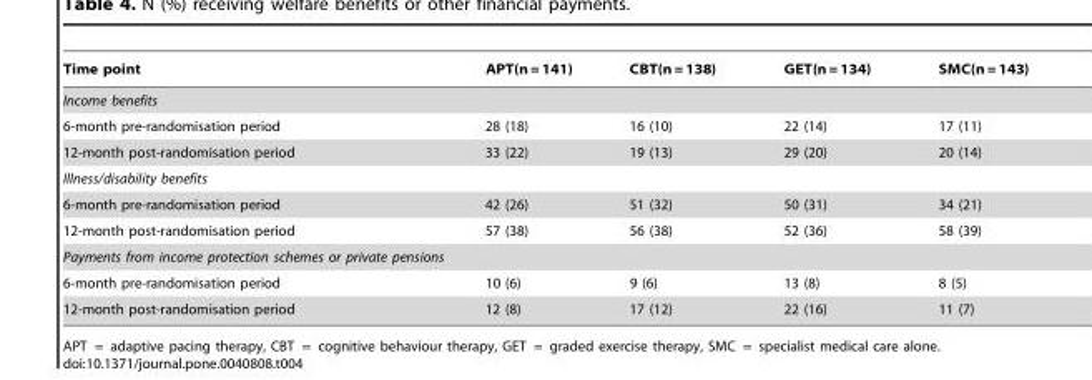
<table><thead><tr><td>Time point</td><td>APT(n = 141)</td><td>CBT(n = 138)</td><td>GET(n = 134)</td><td>SMC(n = 143)</td></tr></thead><tbody><tr><td colspan="5">Income benefits</td></tr><tr><td>6-month pre-randomisation period</td><td>28 (18)</td><td>16 (10)</td><td>22 (14)</td><td>17 (11)</td></tr><tr><td>12-month post-randomisation period</td><td>33 (22)</td><td>19 (13)</td><td>29 (20)</td><td>20 (14)</td></tr><tr><td colspan="5">Illness/disability benefits</td></tr><tr><td>6-month pre-randomisation period</td><td>42 (26)</td><td>51 (32)</td><td>50 (31)</td><td>34 (21)</td></tr><tr><td>12-month post-randomisation period</td><td>57 (38)</td><td>56 (38)</td><td>52 (36)</td><td>58 (39)</td></tr><tr><td colspan="5">Payments from income protection schemes or private pensions</td></tr><tr><td>6-month pre-randomisation period</td><td>10 (6)</td><td>9 (6)</td><td>13 (8)</td><td>8 (5)</td></tr><tr><td>12-month post-randomisation period</td><td>12 (8)</td><td>17 (12)</td><td>22 (16)</td><td>11 (7)</td></tr></tbody></table>